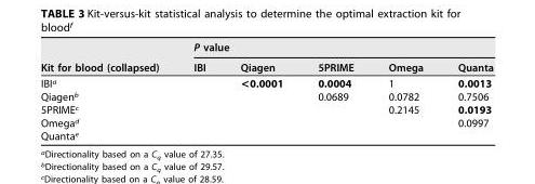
<table><thead><tr><td rowspan="2">Kit for blood (collapsed)</td><td colspan="5">P value</td></tr><tr><td>IBI</td><td>Qiagen</td><td>5PRIME</td><td>Omega</td><td>Quanta</td></tr></thead><tbody><tr><td>IBI<sup>a</sup></td><td></td><td>&lt;0.0001</td><td>0.0004</td><td>1</td><td>0.0013</td></tr><tr><td>Qiagen<sup>b</sup></td><td></td><td></td><td>0.0689</td><td>0.0782</td><td>0.7506</td></tr><tr><td>5PRIME<sup>c</sup></td><td></td><td></td><td></td><td>0.2145</td><td>0.0193</td></tr><tr><td>Omega<sup>d</sup></td><td></td><td></td><td></td><td></td><td>0.0997</td></tr><tr><td>Quanta<sup>e</sup></td><td></td><td></td><td></td><td></td><td></td></tr></tbody></table>